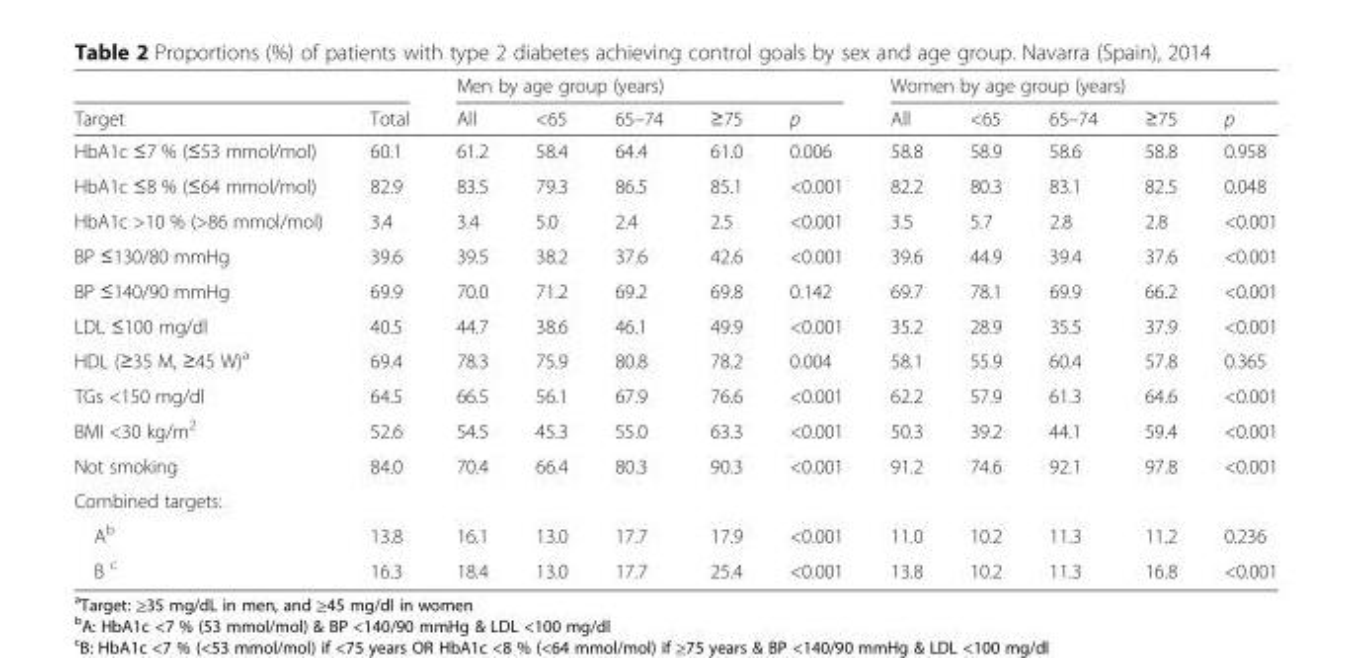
<table><thead><tr><td rowspan="2">Target</td><td rowspan="2">Total</td><td colspan="5">Men by age group (years)</td><td colspan="5">Women by age group (years)</td></tr><tr><td>All</td><td>&lt;65</td><td>65–74</td><td>≥75</td><td>p</td><td>All</td><td>&lt;65</td><td>65–74</td><td>≥75</td><td>p</td></tr></thead><tbody><tr><td>HbA1c ≤7 % (≤53 mmol/mol)</td><td>60.1</td><td>61.2</td><td>58.4</td><td>64.4</td><td>61.0</td><td>0.006</td><td>58.8</td><td>58.9</td><td>58.6</td><td>58.8</td><td>0.958</td></tr><tr><td>HbA1c ≤8 % (≤64 mmol/mol)</td><td>82.9</td><td>83.5</td><td>79.3</td><td>86.5</td><td>85.1</td><td>&lt;0.001</td><td>82.2</td><td>80.3</td><td>83.1</td><td>82.5</td><td>0.048</td></tr><tr><td>HbA1c &gt;10 % (&gt;86 mmol/mol)</td><td>3.4</td><td>3.4</td><td>5.0</td><td>2.4</td><td>2.5</td><td>&lt;0.001</td><td>3.5</td><td>5.7</td><td>2.8</td><td>2.8</td><td>&lt;0.001</td></tr><tr><td>BP ≤130/80 mmHg</td><td>39.6</td><td>39.5</td><td>38.2</td><td>37.6</td><td>42.6</td><td>&lt;0.001</td><td>39.6</td><td>44.9</td><td>39.4</td><td>37.6</td><td>&lt;0.001</td></tr><tr><td>BP ≤140/90 mmHg</td><td>69.9</td><td>70.0</td><td>71.2</td><td>69.2</td><td>69.8</td><td>0.142</td><td>69.7</td><td>78.1</td><td>69.9</td><td>66.2</td><td>&lt;0.001</td></tr><tr><td>LDL ≤100 mg/dl</td><td>40.5</td><td>44.7</td><td>38.6</td><td>46.1</td><td>49.9</td><td>&lt;0.001</td><td>35.2</td><td>28.9</td><td>35.5</td><td>37.9</td><td>&lt;0.001</td></tr><tr><td>HDL (≥35 M, ≥45 W)<sup>a</sup></td><td>69.4</td><td>78.3</td><td>75.9</td><td>80.8</td><td>78.2</td><td>0.004</td><td>58.1</td><td>55.9</td><td>60.4</td><td>57.8</td><td>0.365</td></tr><tr><td>TGs &lt;150 mg/dl</td><td>64.5</td><td>66.5</td><td>56.1</td><td>67.9</td><td>76.6</td><td>&lt;0.001</td><td>62.2</td><td>57.9</td><td>61.3</td><td>64.6</td><td>&lt;0.001</td></tr><tr><td>BMI &lt;30 kg/m<sup>2</sup></td><td>52.6</td><td>54.5</td><td>45.3</td><td>55.0</td><td>63.3</td><td>&lt;0.001</td><td>50.3</td><td>39.2</td><td>44.1</td><td>59.4</td><td>&lt;0.001</td></tr><tr><td>Not smoking</td><td>84.0</td><td>70.4</td><td>66.4</td><td>80.3</td><td>90.3</td><td>&lt;0.001</td><td>91.2</td><td>74.6</td><td>92.1</td><td>97.8</td><td>&lt;0.001</td></tr><tr><td colspan="12">Combined targets:</td></tr><tr><td>A<sup>b</sup></td><td>13.8</td><td>16.1</td><td>13.0</td><td>17.7</td><td>17.9</td><td>&lt;0.001</td><td>11.0</td><td>10.2</td><td>11.3</td><td>11.2</td><td>0.236</td></tr><tr><td>B <sup>c</sup></td><td>16.3</td><td>18.4</td><td>13.0</td><td>17.7</td><td>25.4</td><td>&lt;0.001</td><td>13.8</td><td>10.2</td><td>11.3</td><td>16.8</td><td>&lt;0.001</td></tr></tbody></table>